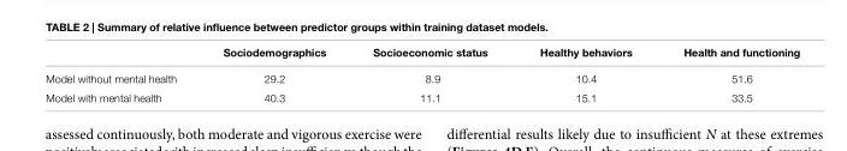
<table><thead><tr><td></td><td>sociodemographics</td><td>socioeconomic status</td><td>healthy behaviors</td><td>health and functioning</td></tr></thead><tbody><tr><td>Model without mental health</td><td>29.2</td><td>8.9</td><td>10.4</td><td>51.6</td></tr><tr><td>Model with mental health</td><td>40.3</td><td>11.1</td><td>15.1</td><td>33.5</td></tr></tbody></table>